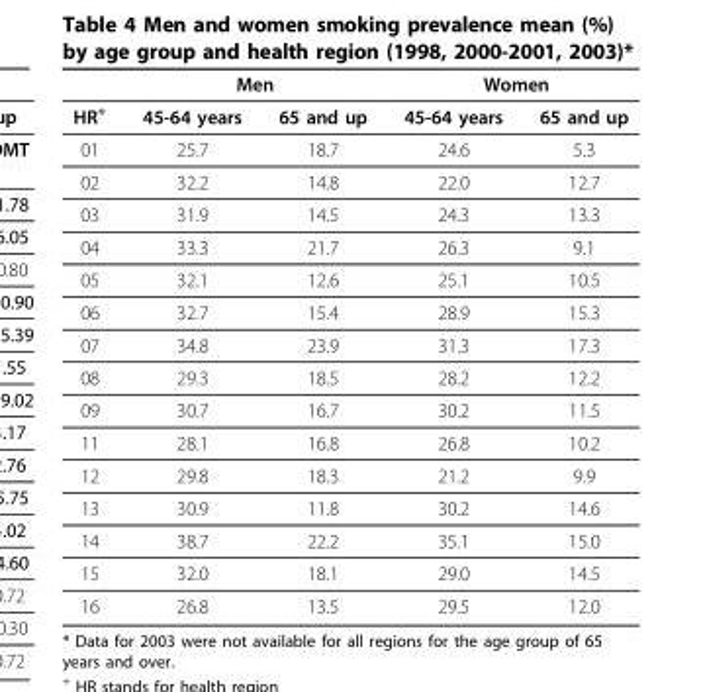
<table><thead><tr><td rowspan="2">HR<sup>+</sup></td><td colspan="2">Men</td><td colspan="2">Women</td></tr><tr><td>45-64 years</td><td>65 and up</td><td>45-64 years</td><td>65 and up</td></tr></thead><tbody><tr><td>01</td><td>25.7</td><td>18.7</td><td>24.6</td><td>5.3</td></tr><tr><td>02</td><td>32.2</td><td>14.8</td><td>22.0</td><td>12.7</td></tr><tr><td>03</td><td>31.9</td><td>14.5</td><td>24.3</td><td>13.3</td></tr><tr><td>04</td><td>33.3</td><td>21.7</td><td>26.3</td><td>9.1</td></tr><tr><td>05</td><td>32.1</td><td>12.6</td><td>25.1</td><td>10.5</td></tr><tr><td>06</td><td>32.7</td><td>15.4</td><td>28.9</td><td>15.3</td></tr><tr><td>07</td><td>34.8</td><td>23.9</td><td>31.3</td><td>17.3</td></tr><tr><td>08</td><td>29.3</td><td>18.5</td><td>28.2</td><td>12.2</td></tr><tr><td>09</td><td>30.7</td><td>16.7</td><td>30.2</td><td>11.5</td></tr><tr><td>11</td><td>28.1</td><td>16.8</td><td>26.8</td><td>10.2</td></tr><tr><td>12</td><td>29.8</td><td>18.3</td><td>21.2</td><td>9.9</td></tr><tr><td>13</td><td>30.9</td><td>11.8</td><td>30.2</td><td>14.6</td></tr><tr><td>14</td><td>38.7</td><td>22.2</td><td>35.1</td><td>15.0</td></tr><tr><td>15</td><td>32.0</td><td>18.1</td><td>29.0</td><td>14.5</td></tr><tr><td>16</td><td>26.8</td><td>13.5</td><td>29.5</td><td>12.0</td></tr></tbody></table>